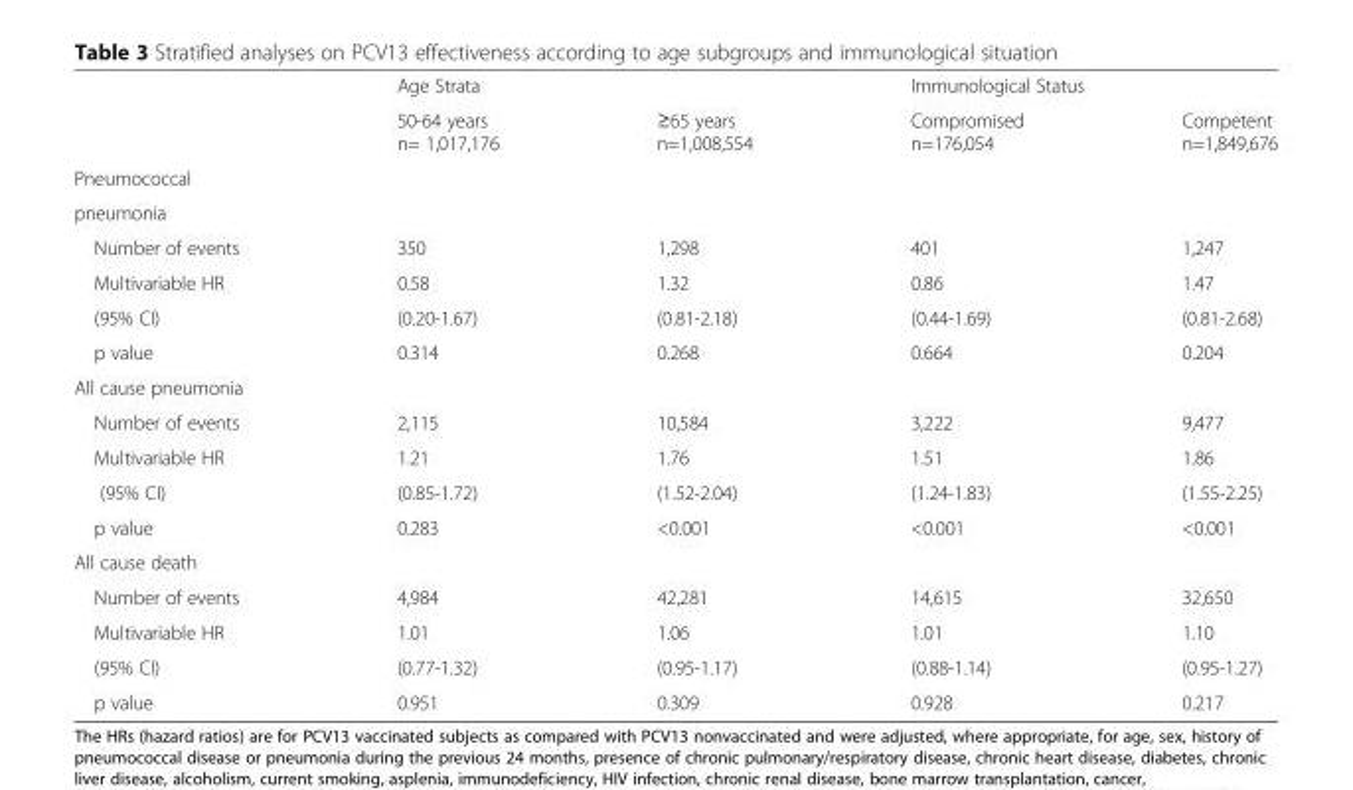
<table><thead><tr><td rowspan="2"></td><td colspan="2">Age Strata</td><td colspan="2">Immunological Status</td></tr><tr><td>50-64 years n= 1,017,176</td><td>≥65 years n=1,008,554</td><td>Compromised n=176,054</td><td>Competent n=1,849,676</td></tr></thead><tbody><tr><td colspan="5">Pneumococcal</td></tr><tr><td colspan="5">pneumonia</td></tr><tr><td>Number of events</td><td>350</td><td>1,298</td><td>401</td><td>1,247</td></tr><tr><td>Multivariable HR</td><td>0.58</td><td>1.32</td><td>0.86</td><td>1.47</td></tr><tr><td>(95% CI)</td><td>(0.20-1.67)</td><td>(0.81-2.18)</td><td>(0.44-1.69)</td><td>(0.81-2.68)</td></tr><tr><td>p value</td><td>0.314</td><td>0.268</td><td>0.664</td><td>0.204</td></tr><tr><td colspan="5">All cause pneumonia</td></tr><tr><td>Number of events</td><td>2,115</td><td>10,584</td><td>3,222</td><td>9,477</td></tr><tr><td>Multivariable HR</td><td>1.21</td><td>1.76</td><td>1.51</td><td>1.86</td></tr><tr><td>(95% CI)</td><td>(0.85-1.72)</td><td>(1.52-2.04)</td><td>(1.24-1.83)</td><td>(1.55-2.25)</td></tr><tr><td>p value</td><td>0.283</td><td>&lt;0.001</td><td>&lt;0.001</td><td>&lt;0.001</td></tr><tr><td colspan="5">All cause death</td></tr><tr><td>Number of events</td><td>4,984</td><td>42,281</td><td>14,615</td><td>32,650</td></tr><tr><td>Multivariable HR</td><td>1.01</td><td>1.06</td><td>1.01</td><td>1.10</td></tr><tr><td>(95% CI)</td><td>(0.77-1.32)</td><td>(0.95-1.17)</td><td>(0.88-1.14)</td><td>(0.95-1.27)</td></tr><tr><td>p value</td><td>0.951</td><td>0.309</td><td>0.928</td><td>0.217</td></tr></tbody></table>